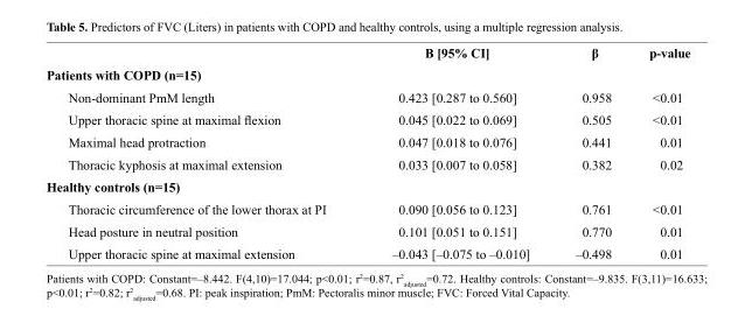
<table><thead><tr><td></td><td>B [95% CI]</td><td>β</td><td>p-value</td></tr></thead><tbody><tr><td colspan="4">Patients with COPD (n=15)</td></tr><tr><td>Non-dominant PmM length</td><td>0.423 [0.287 to 0.560]</td><td>0.958</td><td>&lt;0.01</td></tr><tr><td>Upper thoracic spine at maximal flexion</td><td>0.045 [0.022 to 0.069]</td><td>0.505</td><td>&lt;0.01</td></tr><tr><td>Maximal head protraction</td><td>0.047 [0.018 to 0.076]</td><td>0.441</td><td>0.01</td></tr><tr><td>Thoracic kyphosis at maximal extension</td><td>0.033 [0.007 to 0.058]</td><td>0.382</td><td>0.02</td></tr><tr><td colspan="4">Healthy controls (n=15)</td></tr><tr><td>Thoracic circumference of the lower thorax at PI</td><td>0.090 [0.056 to 0.123]</td><td>0.761</td><td>&lt;0.01</td></tr><tr><td>Head posture in neutral position</td><td>0.101 [0.051 to 0.151]</td><td>0.770</td><td>0.01</td></tr><tr><td>Upper thoracic spine at maximal extension</td><td>–0.043 [–0.075 to –0.010]</td><td>–0.498</td><td>0.01</td></tr></tbody></table>